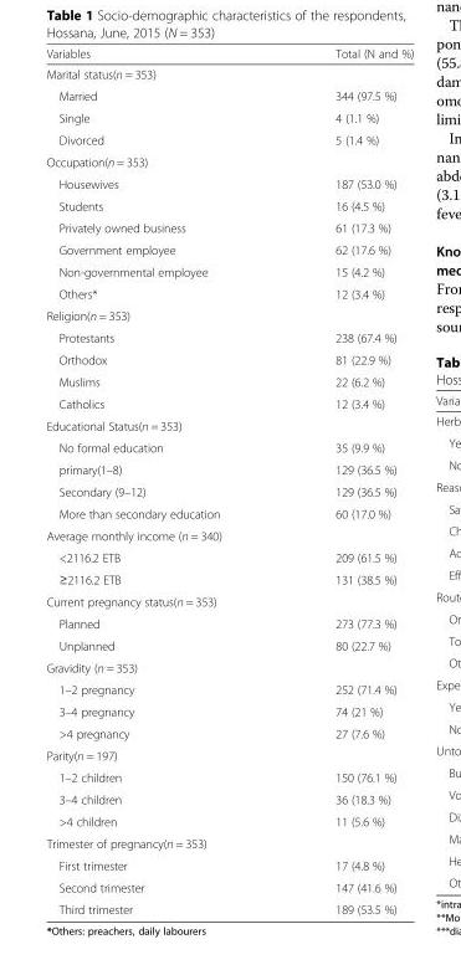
<table><thead><tr><td>Variables</td><td>Total (N and %)</td></tr></thead><tbody><tr><td colspan="2">Marital status(n = 353)</td></tr><tr><td>Married</td><td>344 (97.5 %)</td></tr><tr><td>Single</td><td>4 (1.1 %)</td></tr><tr><td>Divorced</td><td>5 (1.4 %)</td></tr><tr><td colspan="2">Occupation(n = 353)</td></tr><tr><td>Housewives</td><td>187 (53.0 %)</td></tr><tr><td>Students</td><td>16 (4.5 %)</td></tr><tr><td>Privately owned business</td><td>61 (17.3 %)</td></tr><tr><td>Government employee</td><td>62 (17.6 %)</td></tr><tr><td>Non-governmental employee</td><td>15 (4.2 %)</td></tr><tr><td>Others*</td><td>12 (3.4 %)</td></tr><tr><td colspan="2">Religion(n = 353)</td></tr><tr><td>Protestants</td><td>238 (67.4 %)</td></tr><tr><td>Orthodox</td><td>81 (22.9 %)</td></tr><tr><td>Muslims</td><td>22 (6.2 %)</td></tr><tr><td>Catholics</td><td>12 (3.4 %)</td></tr><tr><td colspan="2">Educational Status(n = 353)</td></tr><tr><td>No formal education</td><td>35 (9.9 %)</td></tr><tr><td>primary(1–8)</td><td>129 (36.5 %)</td></tr><tr><td>Secondary (9–12)</td><td>129 (36.5 %)</td></tr><tr><td>More than secondary education</td><td>60 (17.0 %)</td></tr><tr><td colspan="2">Average monthly income (n = 340)</td></tr><tr><td>&lt;2116.2 ETB</td><td>209 (61.5 %)</td></tr><tr><td>≥2116.2 ETB</td><td>131 (38.5 %)</td></tr><tr><td colspan="2">Current pregnancy status(n = 353)</td></tr><tr><td>Planned</td><td>273 (77.3 %)</td></tr><tr><td>Unplanned</td><td>80 (22.7 %)</td></tr><tr><td colspan="2">Gravidity (n = 353)</td></tr><tr><td>1–2 pregnancy</td><td>252 (71.4 %)</td></tr><tr><td>3–4 pregnancy</td><td>74 (21 %)</td></tr><tr><td>&gt;4 pregnancy</td><td>27 (7.6 %)</td></tr><tr><td colspan="2">Parity(n = 197)</td></tr><tr><td>1–2 children</td><td>150 (76.1 %)</td></tr><tr><td>3–4 children</td><td>36 (18.3 %)</td></tr><tr><td>&gt;4 children</td><td>11 (5.6 %)</td></tr><tr><td colspan="2">Trimester of pregnancy(n = 353)</td></tr><tr><td>First trimester</td><td>17 (4.8 %)</td></tr><tr><td>Second trimester</td><td>147 (41.6 %)</td></tr><tr><td>Third trimester</td><td>189 (53.5 %)</td></tr></tbody></table>